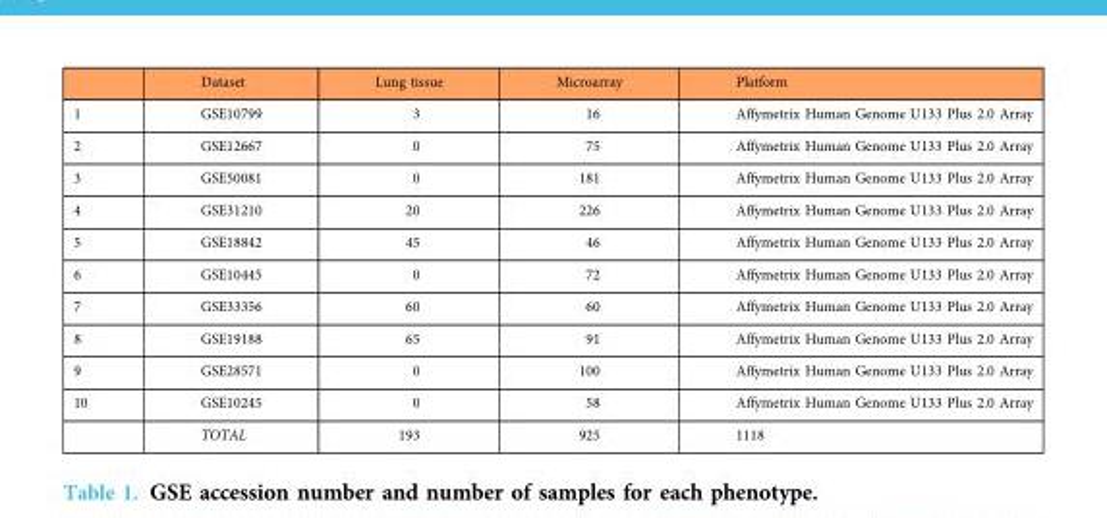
<table><thead><tr><td></td><td>Dataset</td><td>Lung tissue</td><td>Microarray</td><td>Platform</td></tr></thead><tbody><tr><td>1</td><td>GSE10799</td><td>3</td><td>16</td><td>Affymetrix Human Genome U133 Plus 2.0 Array</td></tr><tr><td>2</td><td>GSE12667</td><td>0</td><td>75</td><td>Affymetrix Human Genome U133 Plus 2.0 Array</td></tr><tr><td>3</td><td>GSE50081</td><td>0</td><td>181</td><td>Affymetrix Human Genome U133 Plus 2.0 Array</td></tr><tr><td>4</td><td>GSE31210</td><td>20</td><td>226</td><td>Affymetrix Human Genome U133 Plus 2.0 Array</td></tr><tr><td>5</td><td>GSE18842</td><td>45</td><td>46</td><td>Affymetrix Human Genome U133 Plus 2.0 Array</td></tr><tr><td>6</td><td>GSE10445</td><td>0</td><td>72</td><td>Affymetrix Human Genome U133 Plus 2.0 Array</td></tr><tr><td>7</td><td>GSE33356</td><td>60</td><td>60</td><td>Affymetrix Human Genome U133 Plus 2.0 Array</td></tr><tr><td>8</td><td>GSE19188</td><td>65</td><td>91</td><td>Affymetrix Human Genome U133 Plus 2.0 Array</td></tr><tr><td>9</td><td>GSE28571</td><td>0</td><td>100</td><td>Affymetrix Human Genome U133 Plus 2.0 Array</td></tr><tr><td rowspan="2">10</td><td>GSE10245</td><td>0</td><td>58</td><td>Affymetrix Human Genome U133 Plus 2.0 Array</td></tr><tr><td>TOTAL</td><td>193</td><td>925</td><td>1118</td></tr></tbody></table>